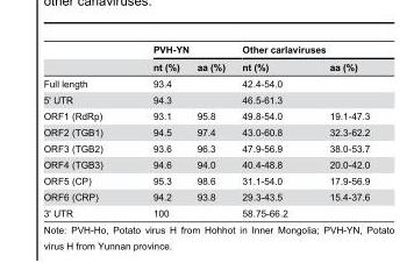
<table><thead><tr><td rowspan="2"></td><td colspan="2">PVH-YN</td><td colspan="2">Other carlaviruses</td></tr><tr><td>nt (%)</td><td>aa (%)</td><td>nt (%)</td><td>aa (%)</td></tr></thead><tbody><tr><td>Full length</td><td>93.4</td><td></td><td>42.4-54.0</td><td></td></tr><tr><td>5&#x27; UTR</td><td>94.3</td><td></td><td>46.5-61.3</td><td></td></tr><tr><td>ORF1 (RdRp)</td><td>93.1</td><td>95.8</td><td>49.8-54.0</td><td>19.1-47.3</td></tr><tr><td>ORF2 (TGB1)</td><td>94.5</td><td>97.4</td><td>43.0-60.8</td><td>32.3-62.2</td></tr><tr><td>ORF3 (TGB2)</td><td>93.6</td><td>96.3</td><td>47.9-56.9</td><td>38.0-53.7</td></tr><tr><td>ORF4 (TGB3)</td><td>94.6</td><td>94.0</td><td>40.4-48.8</td><td>20.0-42.0</td></tr><tr><td>ORF5 (CP)</td><td>95.3</td><td>98.6</td><td>31.1-54.0</td><td>17.9-56.9</td></tr><tr><td>ORF6 (CRP)</td><td>94.2</td><td>93.8</td><td>29.3-43.5</td><td>15.4-37.6</td></tr><tr><td>3&#x27; UTR</td><td>100</td><td></td><td>58.75-66.2</td><td></td></tr></tbody></table>